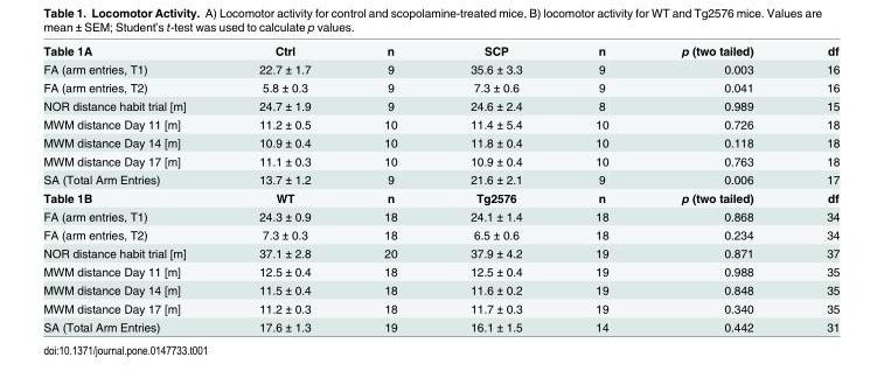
<table><tbody><tr><td>Table 1A</td><td>Ctrl</td><td>n</td><td>SCP</td><td>n</td><td>p (two tailed)</td><td>df</td></tr><tr><td>FA (arm entries, T1)</td><td>22.7 ± 1.7</td><td>9</td><td>35.6 ± 3.3</td><td>9</td><td>0.003</td><td>16</td></tr><tr><td>FA (arm entries, T2)</td><td>5.8 ± 0.3</td><td>9</td><td>7.3 ± 0.6</td><td>9</td><td>0.041</td><td>16</td></tr><tr><td>NOR distance habit trial [m]</td><td>24.7 ± 1.9</td><td>9</td><td>24.6 ± 2.4</td><td>8</td><td>0.989</td><td>15</td></tr><tr><td>MWM distance Day 11 [m]</td><td>11.2 ± 0.5</td><td>10</td><td>11.4 ± 5.4</td><td>10</td><td>0.726</td><td>18</td></tr><tr><td>MWM distance Day 14 [m]</td><td>10.9 ± 0.4</td><td>10</td><td>11.8 ± 0.4</td><td>10</td><td>0.118</td><td>18</td></tr><tr><td>MWM distance Day 17 [m]</td><td>11.1 ± 0.3</td><td>10</td><td>10.9 ± 0.4</td><td>10</td><td>0.763</td><td>18</td></tr><tr><td>SA (Total Arm Entries)</td><td>13.7 ± 1.2</td><td>9</td><td>21.6 ± 2.1</td><td>9</td><td>0.006</td><td>17</td></tr><tr><td>Table 1B</td><td>WT</td><td>n</td><td>Tg2576</td><td>n</td><td>p (two tailed)</td><td>df</td></tr><tr><td>FA (arm entries, T1)</td><td>24.3 ± 0.9</td><td>18</td><td>24.1 ± 1.4</td><td>18</td><td>0.868</td><td>34</td></tr><tr><td>FA (arm entries, T2)</td><td>7.3 ± 0.3</td><td>18</td><td>6.5 ± 0.6</td><td>18</td><td>0.234</td><td>34</td></tr><tr><td>NOR distance habit trial [m]</td><td>37.1 ± 2.8</td><td>20</td><td>37.9 ± 4.2</td><td>19</td><td>0.871</td><td>37</td></tr><tr><td>MWM distance Day 11 [m]</td><td>12.5 ± 0.4</td><td>18</td><td>12.5 ± 0.4</td><td>19</td><td>0.988</td><td>35</td></tr><tr><td>MWM distance Day 14 [m]</td><td>11.5 ± 0.4</td><td>18</td><td>11.6 ± 0.2</td><td>19</td><td>0.848</td><td>35</td></tr><tr><td>MWM distance Day 17 [m]</td><td>11.2 ± 0.3</td><td>18</td><td>11.7 ± 0.3</td><td>19</td><td>0.340</td><td>35</td></tr><tr><td>SA (Total Arm Entries)</td><td>17.6 ± 1.3</td><td>19</td><td>16.1 ± 1.5</td><td>14</td><td>0.442</td><td>31</td></tr></tbody></table>